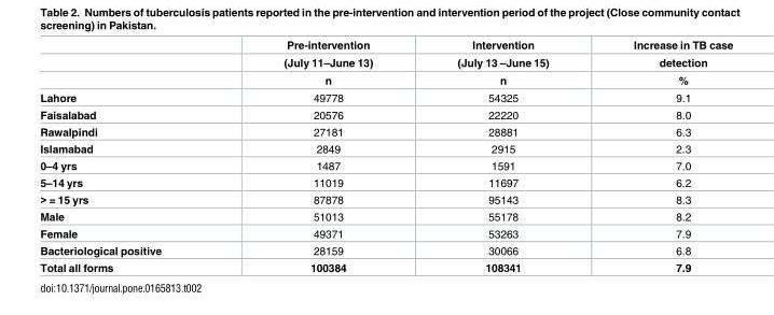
<table><thead><tr><td rowspan="3"></td><td rowspan="3">Pre-intervention (July 11–June 13) n</td><td rowspan="3">Intervention (July 13 –June 15) n</td><td rowspan="3">Increase in TB case detection %</td></tr><tr></tr><tr></tr></thead><tbody><tr><td>Lahore</td><td>49778</td><td>54325</td><td>9.1</td></tr><tr><td>Faisalabad</td><td>20576</td><td>22220</td><td>8.0</td></tr><tr><td>Rawalpindi</td><td>27181</td><td>28881</td><td>6.3</td></tr><tr><td>Islamabad</td><td>2849</td><td>2915</td><td>2.3</td></tr><tr><td>0–4 yrs</td><td>1487</td><td>1591</td><td>7.0</td></tr><tr><td>5–14 yrs</td><td>11019</td><td>11697</td><td>6.2</td></tr><tr><td>&gt; = 15 yrs</td><td>87878</td><td>95143</td><td>8.3</td></tr><tr><td>Male</td><td>51013</td><td>55178</td><td>8.2</td></tr><tr><td>Female</td><td>49371</td><td>53263</td><td>7.9</td></tr><tr><td>Bacteriological positive</td><td>28159</td><td>30066</td><td>6.8</td></tr><tr><td>Total all forms</td><td>100384</td><td>108341</td><td>7.9</td></tr></tbody></table>